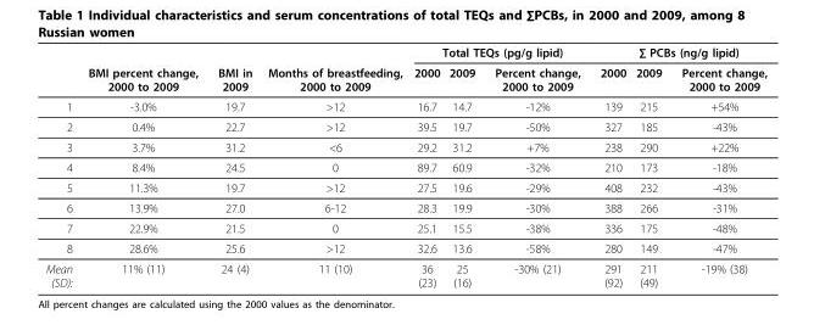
<table><thead><tr><td rowspan="2"></td><td rowspan="2">BMI percent change, 2000 to 2009</td><td rowspan="2">BMI in 2009</td><td rowspan="2">Months of breastfeeding, 2000 to 2009</td><td colspan="3">Total TEQs (pg/g lipid)</td><td colspan="3">∑ PCBs (ng/g lipid)</td></tr><tr><td>2000</td><td>2009</td><td>Percent change, 2000 to 2009</td><td>2000</td><td>2009</td><td>Percent change, 2000 to 2009</td></tr></thead><tbody><tr><td>1</td><td>-3.0%</td><td>19.7</td><td>&gt;12</td><td>16.7</td><td>14.7</td><td>-12%</td><td>139</td><td>215</td><td>+54%</td></tr><tr><td>2</td><td>0.4%</td><td>22.7</td><td>&gt;12</td><td>39.5</td><td>19.7</td><td>-50%</td><td>327</td><td>185</td><td>-43%</td></tr><tr><td>3</td><td>3.7%</td><td>31.2</td><td>&lt;6</td><td>29.2</td><td>31.2</td><td>+7%</td><td>238</td><td>290</td><td>+22%</td></tr><tr><td>4</td><td>8.4%</td><td>24.5</td><td>0</td><td>89.7</td><td>60.9</td><td>-32%</td><td>210</td><td>173</td><td>-18%</td></tr><tr><td>5</td><td>11.3%</td><td>19.7</td><td>&gt;12</td><td>27.5</td><td>19.6</td><td>-29%</td><td>408</td><td>232</td><td>-43%</td></tr><tr><td>6</td><td>13.9%</td><td>27.0</td><td>6-12</td><td>28.3</td><td>19.9</td><td>-30%</td><td>388</td><td>266</td><td>-31%</td></tr><tr><td>7</td><td>22.9%</td><td>21.5</td><td>0</td><td>25.1</td><td>15.5</td><td>-38%</td><td>336</td><td>175</td><td>-48%</td></tr><tr><td>8</td><td>28.6%</td><td>25.6</td><td>&gt;12</td><td>32.6</td><td>13.6</td><td>-58%</td><td>280</td><td>149</td><td>-47%</td></tr><tr><td>Mean (SD):</td><td>11% (11)</td><td>24 (4)</td><td>11 (10)</td><td>36 (23)</td><td>25 (16)</td><td>-30% (21)</td><td>291 (92)</td><td>211 (49)</td><td>-19% (38)</td></tr></tbody></table>